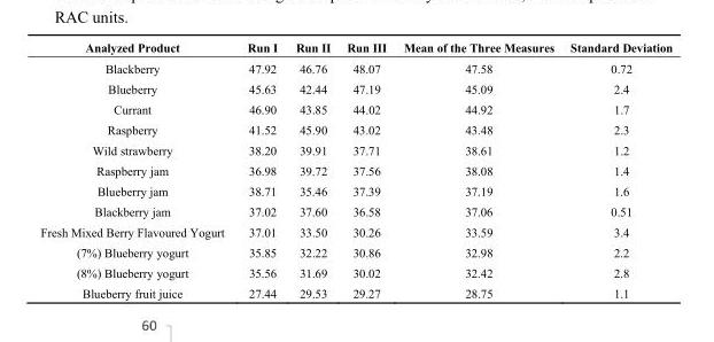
<table><thead><tr><td>Analyzed Product</td><td>Run I</td><td>Run II</td><td>Run III</td><td>Mean of the Three Measures</td><td>Standard Deviation</td></tr></thead><tbody><tr><td>Blackberry</td><td>47.92</td><td>46.76</td><td>48.07</td><td>47.58</td><td>0.72</td></tr><tr><td>Blueberry</td><td>45.63</td><td>42.44</td><td>47.19</td><td>45.09</td><td>2.4</td></tr><tr><td>Currant</td><td>46.90</td><td>43.85</td><td>44.02</td><td>44.92</td><td>1.7</td></tr><tr><td>Raspberry</td><td>41.52</td><td>45.90</td><td>43.02</td><td>43.48</td><td>2.3</td></tr><tr><td>Wild strawberry</td><td>38.20</td><td>39.91</td><td>37.71</td><td>38.61</td><td>1.2</td></tr><tr><td>Raspberry jam</td><td>36.98</td><td>39.72</td><td>37.56</td><td>38.08</td><td>1.4</td></tr><tr><td>Blueberry jam</td><td>38.71</td><td>35.46</td><td>37.39</td><td>37.19</td><td>1.6</td></tr><tr><td>Blackberry jam</td><td>37.02</td><td>37.60</td><td>36.58</td><td>37.06</td><td>0.51</td></tr><tr><td>Fresh Mixed Berry Flavoured Yogurt</td><td>37.01</td><td>33.50</td><td>30.26</td><td>33.59</td><td>3.4</td></tr><tr><td>(7%) Blueberry yogurt</td><td>35.85</td><td>32.22</td><td>30.86</td><td>32.98</td><td>2.2</td></tr><tr><td>(8%) Blueberry yogurt</td><td>35.56</td><td>31.69</td><td>30.02</td><td>32.42</td><td>2.8</td></tr><tr><td>Blueberry fruit juice</td><td>27.44</td><td>29.53</td><td>29.27</td><td>28.75</td><td>1.1</td></tr></tbody></table>